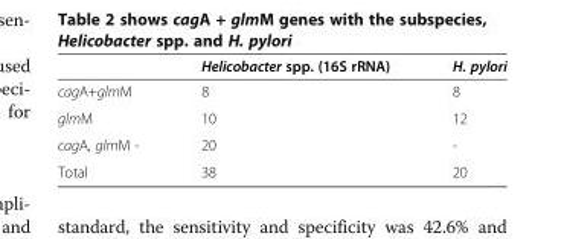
<table><thead><tr><td></td><td>Helicobacter spp. (16S rRNA)</td><td>H. pylori</td></tr></thead><tbody><tr><td>cagA+glmM</td><td>8</td><td>8</td></tr><tr><td>glmM</td><td>10</td><td>12</td></tr><tr><td>cagA, glmM -</td><td>20</td><td>-</td></tr><tr><td>Total</td><td>38</td><td>20</td></tr></tbody></table>